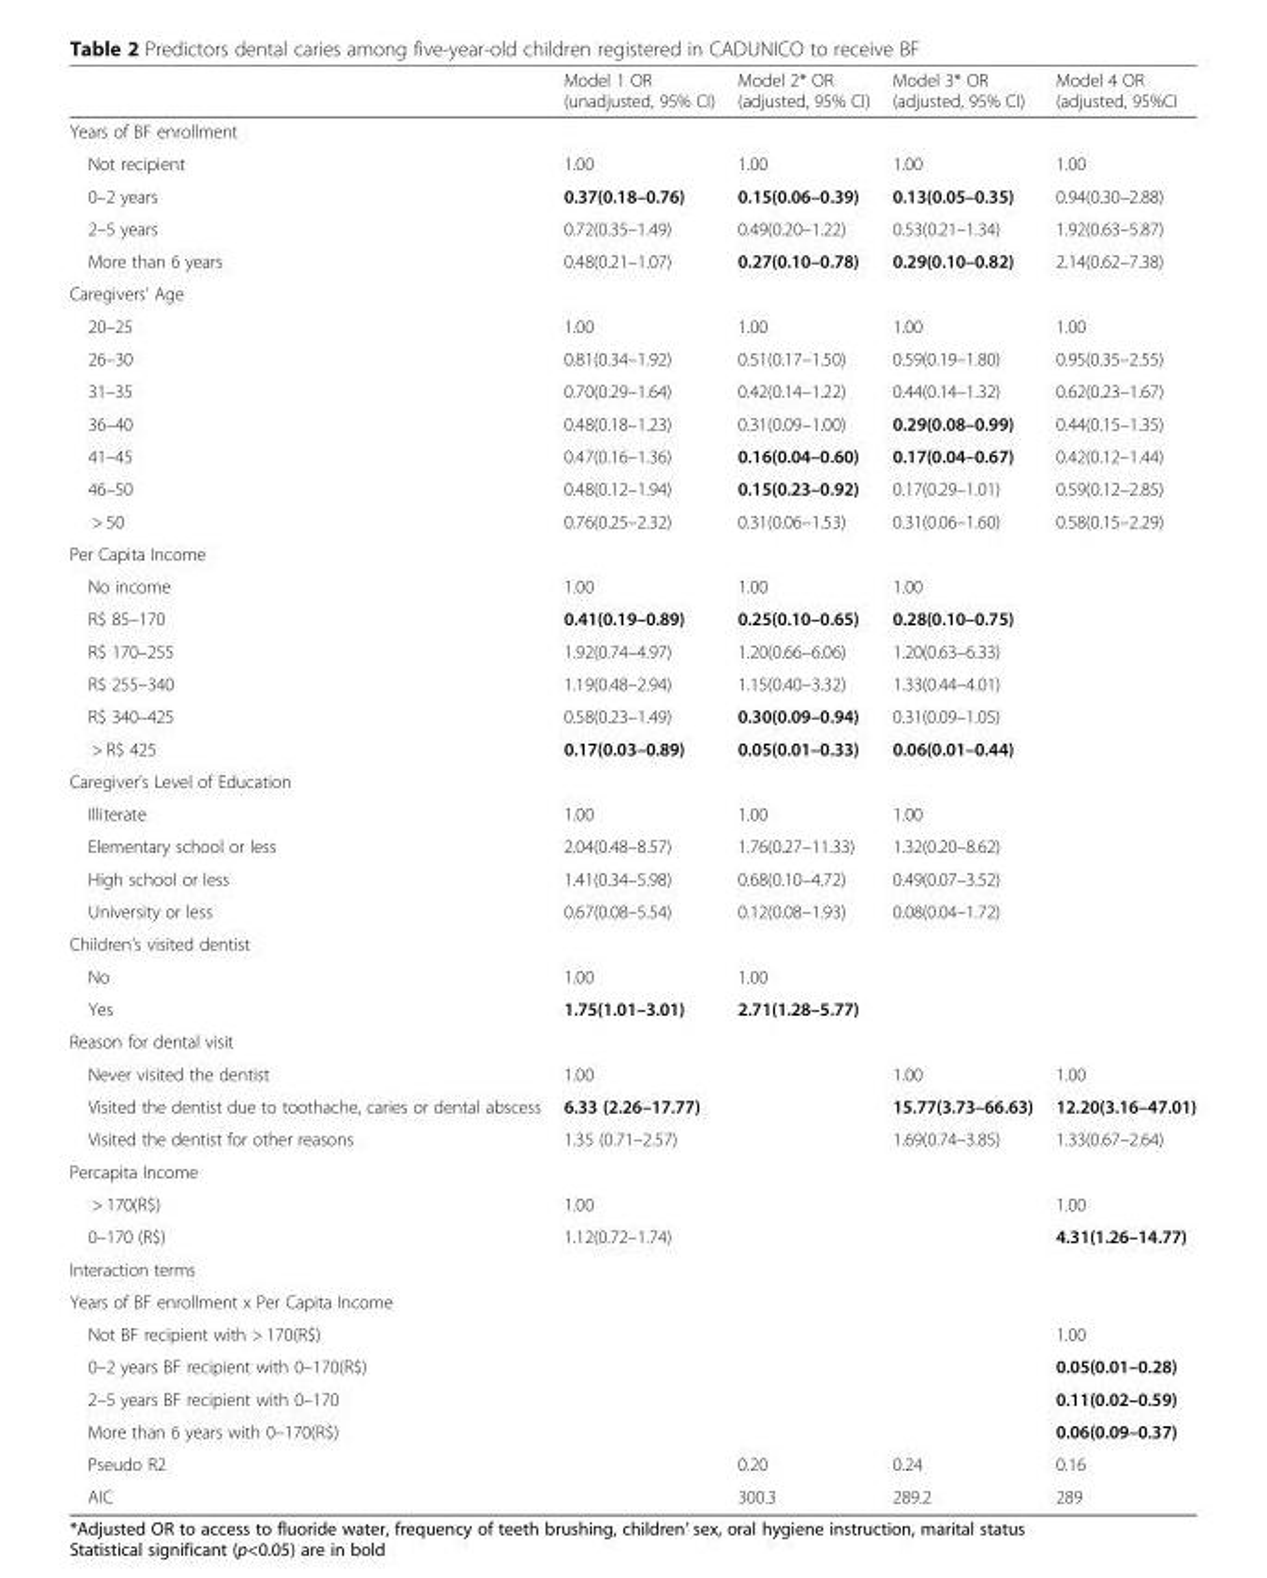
<table><thead><tr><td></td><td>Model 1 OR (unadjusted, 95% CI)</td><td>Model 2* OR (adjusted, 95% CI)</td><td>Model 3* OR (adjusted, 95% CI)</td><td>Model 4 OR (adjusted, 95%CI</td></tr></thead><tbody><tr><td colspan="5">Years of BF enrollment</td></tr><tr><td>Not recipient</td><td>1.00</td><td>1.00</td><td>1.00</td><td>1.00</td></tr><tr><td>0–2 years</td><td>0.37(0.18–0.76)</td><td>0.15(0.06–0.39)</td><td>0.13(0.05–0.35)</td><td>0.94(0.30–2.88)</td></tr><tr><td>2–5 years</td><td>0.72(0.35–1.49)</td><td>0.49(0.20–1.22)</td><td>0.53(0.21–1.34)</td><td>1.92(0.63–5.87)</td></tr><tr><td>More than 6 years</td><td>0.48(0.21–1.07)</td><td>0.27(0.10–0.78)</td><td>0.29(0.10–0.82)</td><td>2.14(0.62–7.38)</td></tr><tr><td colspan="5">Caregivers’ Age</td></tr><tr><td>20–25</td><td>1.00</td><td>1.00</td><td>1.00</td><td>1.00</td></tr><tr><td>26–30</td><td>0.81(0.34–1.92)</td><td>0.51(0.17–1.50)</td><td>0.59(0.19–1.80)</td><td>0.95(0.35–2.55)</td></tr><tr><td>31–35</td><td>0.70(0.29–1.64)</td><td>0.42(0.14–1.22)</td><td>0.44(0.14–1.32)</td><td>0.62(0.23–1.67)</td></tr><tr><td>36–40</td><td>0.48(0.18–1.23)</td><td>0.31(0.09–1.00)</td><td>0.29(0.08–0.99)</td><td>0.44(0.15–1.35)</td></tr><tr><td>41–45</td><td>0.47(0.16–1.36)</td><td>0.16(0.04–0.60)</td><td>0.17(0.04–0.67)</td><td>0.42(0.12–1.44)</td></tr><tr><td>46–50</td><td>0.48(0.12–1.94)</td><td>0.15(0.23–0.92)</td><td>0.17(0.29–1.01)</td><td>0.59(0.12–2.85)</td></tr><tr><td>&gt; 50</td><td>0.76(0.25–2.32)</td><td>0.31(0.06–1.53)</td><td>0.31(0.06–1.60)</td><td>0.58(0.15–2.29)</td></tr><tr><td colspan="5">Per Capita Income</td></tr><tr><td>No income</td><td>1.00</td><td>1.00</td><td>1.00</td><td></td></tr><tr><td>R$ 85–170</td><td>0.41(0.19–0.89)</td><td>0.25(0.10–0.65)</td><td>0.28(0.10–0.75)</td><td></td></tr><tr><td>R$ 170–255</td><td>1.92(0.74–4.97)</td><td>1.20(0.66–6.06)</td><td>1.20(0.63–6.33)</td><td></td></tr><tr><td>R$ 255–340</td><td>1.19(0.48–2.94)</td><td>1.15(0.40–3.32)</td><td>1.33(0.44–4.01)</td><td></td></tr><tr><td>R$ 340–425</td><td>0.58(0.23–1.49)</td><td>0.30(0.09–0.94)</td><td>0.31(0.09–1.05)</td><td></td></tr><tr><td>&gt; R$ 425</td><td>0.17(0.03–0.89)</td><td>0.05(0.01–0.33)</td><td>0.06(0.01–0.44)</td><td></td></tr><tr><td colspan="5">Caregiver’s Level of Education</td></tr><tr><td>Illiterate</td><td>1.00</td><td>1.00</td><td>1.00</td><td></td></tr><tr><td>Elementary school or less</td><td>2.04(0.48–8.57)</td><td>1.76(0.27–11.33)</td><td>1.32(0.20–8.62)</td><td></td></tr><tr><td>High school or less</td><td>1.41(0.34–5.98)</td><td>0.68(0.10–4.72)</td><td>0.49(0.07–3.52)</td><td></td></tr><tr><td>University or less</td><td>0.67(0.08–5.54)</td><td>0.12(0.08–1.93)</td><td>0.08(0.04–1.72)</td><td></td></tr><tr><td colspan="5">Children’s visited dentist</td></tr><tr><td>No</td><td>1.00</td><td>1.00</td><td></td><td></td></tr><tr><td>Yes</td><td>1.75(1.01–3.01)</td><td>2.71(1.28–5.77)</td><td></td><td></td></tr><tr><td colspan="5">Reason for dental visit</td></tr><tr><td>Never visited the dentist</td><td>1.00</td><td></td><td>1.00</td><td>1.00</td></tr><tr><td>Visited the dentist due to toothache, caries or dental abscess</td><td>6.33 (2.26–17.77)</td><td></td><td>15.77(3.73–66.63)</td><td>12.20(3.16–47.01)</td></tr><tr><td>Visited the dentist for other reasons</td><td>1.35 (0.71–2.57)</td><td></td><td>1.69(0.74–3.85)</td><td>1.33(0.67–2.64)</td></tr><tr><td colspan="5">Percapita Income</td></tr><tr><td>&gt; 170(R$)</td><td>1.00</td><td></td><td></td><td>1.00</td></tr><tr><td>0–170 (R$)</td><td>1.12(0.72–1.74)</td><td></td><td></td><td>4.31(1.26–14.77)</td></tr><tr><td colspan="5">Interaction terms</td></tr><tr><td colspan="5">Years of BF enrollment x Per Capita Income</td></tr><tr><td>Not BF recipient with &gt; 170(R$)</td><td></td><td></td><td></td><td>1.00</td></tr><tr><td>0–2 years BF recipient with 0–170(R$)</td><td></td><td></td><td></td><td>0.05(0.01–0.28)</td></tr><tr><td>2–5 years BF recipient with 0–170</td><td></td><td></td><td></td><td>0.11(0.02–0.59)</td></tr><tr><td>More than 6 years with 0–170(R$)</td><td></td><td></td><td></td><td>0.06(0.09–0.37)</td></tr><tr><td>Pseudo R2</td><td></td><td>0.20</td><td>0.24</td><td>0.16</td></tr><tr><td>AIC</td><td></td><td>300.3</td><td>289.2</td><td>289</td></tr></tbody></table>